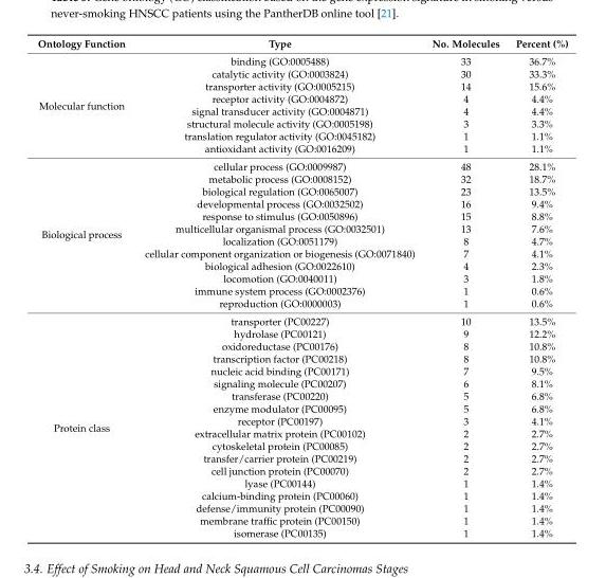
<table><thead><tr><td>Ontology Function</td><td>Type</td><td>No. Molecules</td><td>Percent (%)</td></tr></thead><tbody><tr><td rowspan="8">Molecular function</td><td>binding (GO:0005488)</td><td>33</td><td>36.7%</td></tr><tr><td>catalytic activity (GO:0003824)</td><td>30</td><td>33.3%</td></tr><tr><td>transporter activity (GO:0005215)</td><td>14</td><td>15.6%</td></tr><tr><td>receptor activity (GO:0004872)</td><td>4</td><td>4.4%</td></tr><tr><td>signal transducer activity (GO:0004871)</td><td>4</td><td>4.4%</td></tr><tr><td>structural molecule activity (GO:0005198)</td><td>3</td><td>3.3%</td></tr><tr><td>translation regulator activity (GO:0045182)</td><td>1</td><td>1.1%</td></tr><tr><td>antioxidant activity (GO:0016209)</td><td>1</td><td>1.1%</td></tr><tr><td rowspan="12">Biological process</td><td>cellular process (GO:0009987)</td><td>48</td><td>28.1%</td></tr><tr><td>metabolic process (GO:0008152)</td><td>32</td><td>18.7%</td></tr><tr><td>biological regulation (GO:0065007)</td><td>23</td><td>13.5%</td></tr><tr><td>developmental process (GO:0032502)</td><td>16</td><td>9.4%</td></tr><tr><td>response to stimulus (GO:0050896)</td><td>15</td><td>8.8%</td></tr><tr><td>multicellular organismal process (GO:0032501)</td><td>13</td><td>7.6%</td></tr><tr><td>localization (GO:0051179)</td><td>8</td><td>4.7%</td></tr><tr><td>cellular component organization or biogenesis (GO:0071840)</td><td>7</td><td>4.1%</td></tr><tr><td>biological adhesion (GO:0022610)</td><td>4</td><td>2.3%</td></tr><tr><td>locomotion (GO:0040011)</td><td>3</td><td>1.8%</td></tr><tr><td>immune system process (GO:0002376)</td><td>1</td><td>0.6%</td></tr><tr><td>reproduction (GO:0000003)</td><td>1</td><td>0.6%</td></tr><tr><td rowspan="18">Protein class</td><td>transporter (PC00227)</td><td>10</td><td>13.5%</td></tr><tr><td>hydrolase (PC00121)</td><td>9</td><td>12.2%</td></tr><tr><td>oxidoreductase (PC00176)</td><td>8</td><td>10.8%</td></tr><tr><td>transcription factor (PC00218)</td><td>8</td><td>10.8%</td></tr><tr><td>nucleic acid binding (PC00171)</td><td>7</td><td>9.5%</td></tr><tr><td>signaling molecule (PC00207)</td><td>6</td><td>8.1%</td></tr><tr><td>transferase (PC00220)</td><td>5</td><td>6.8%</td></tr><tr><td>enzyme modulator (PC00095)</td><td>5</td><td>6.8%</td></tr><tr><td>receptor (PC00197)</td><td>3</td><td>4.1%</td></tr><tr><td>extracellular matrix protein (PC00102)</td><td>2</td><td>2.7%</td></tr><tr><td>cytoskeletal protein (PC00085)</td><td>2</td><td>2.7%</td></tr><tr><td>transfer/carrier protein (PC00219)</td><td>2</td><td>2.7%</td></tr><tr><td>cell junction protein (PC00070)</td><td>2</td><td>2.7%</td></tr><tr><td>lyase (PC00144)</td><td>1</td><td>1.4%</td></tr><tr><td>calcium-binding protein (PC00060)</td><td>1</td><td>1.4%</td></tr><tr><td>defense/immunity protein (PC00090)</td><td>1</td><td>1.4%</td></tr><tr><td>membrane traffic protein (PC00150)</td><td>1</td><td>1.4%</td></tr><tr><td>isomerase (PC00135)</td><td>1</td><td>1.4%</td></tr></tbody></table>